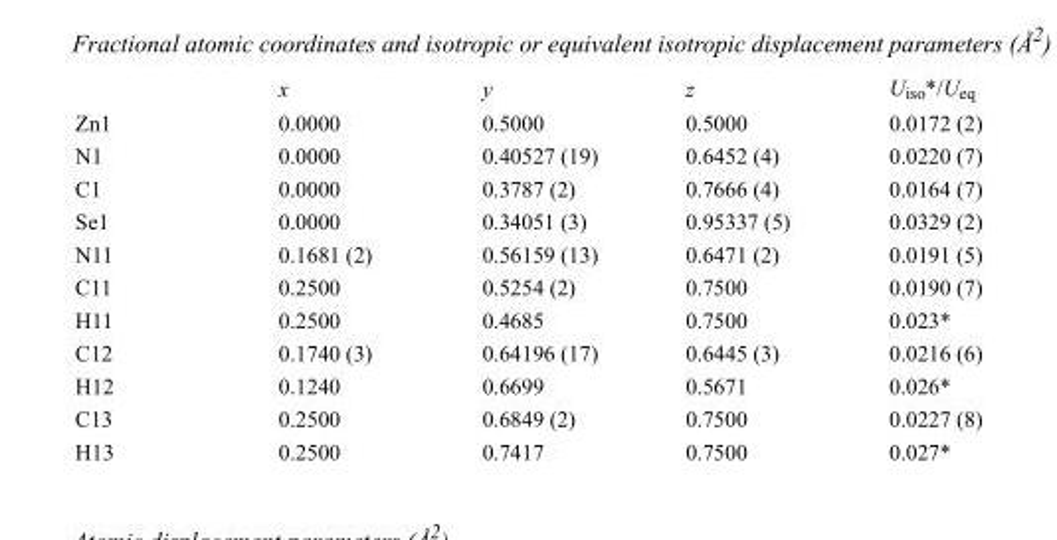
<table><thead><tr><td></td><td>x</td><td>y</td><td>z</td><td>U<sub>iso</sub>*/U<sub>eq</sub></td></tr></thead><tbody><tr><td>Zn1</td><td>0.0000</td><td>0.5000</td><td>0.5000</td><td>0.0172 (2)</td></tr><tr><td>N1</td><td>0.0000</td><td>0.40527 (19)</td><td>0.6452 (4)</td><td>0.0220 (7)</td></tr><tr><td>C1</td><td>0.0000</td><td>0.3787 (2)</td><td>0.7666 (4)</td><td>0.0164 (7)</td></tr><tr><td>Se1</td><td>0.0000</td><td>0.34051 (3)</td><td>0.95337 (5)</td><td>0.0329 (2)</td></tr><tr><td>N11</td><td>0.1681 (2)</td><td>0.56159 (13)</td><td>0.6471 (2)</td><td>0.0191 (5)</td></tr><tr><td>C11</td><td>0.2500</td><td>0.5254 (2)</td><td>0.7500</td><td>0.0190 (7)</td></tr><tr><td>H11</td><td>0.2500</td><td>0.4685</td><td>0.7500</td><td>0.023*</td></tr><tr><td>C12</td><td>0.1740 (3)</td><td>0.64196 (17)</td><td>0.6445 (3)</td><td>0.0216 (6)</td></tr><tr><td>H12</td><td>0.1240</td><td>0.6699</td><td>0.5671</td><td>0.026*</td></tr><tr><td>C13</td><td>0.2500</td><td>0.6849 (2)</td><td>0.7500</td><td>0.0227 (8)</td></tr><tr><td>H13</td><td>0.2500</td><td>0.7417</td><td>0.7500</td><td>0.027*</td></tr></tbody></table>